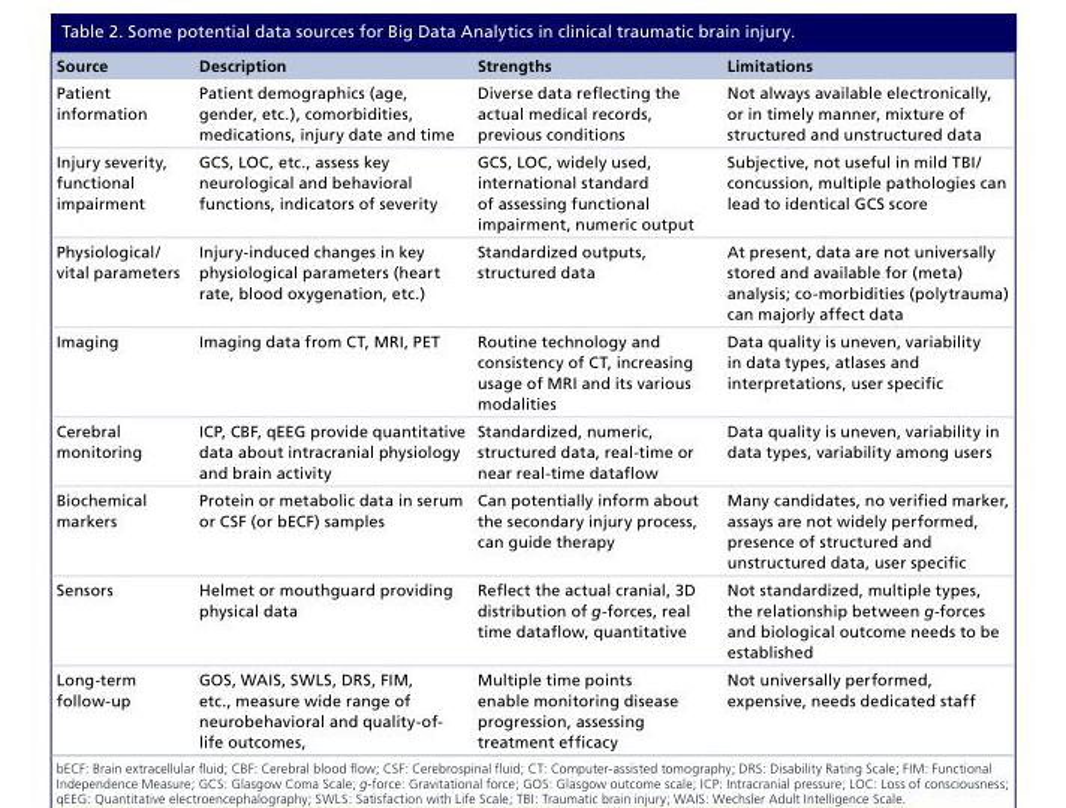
<table><thead><tr><td>Source</td><td>Description</td><td>Strengths</td><td>Limitations</td></tr></thead><tbody><tr><td>Patient information</td><td>Patient demographics (age, gender, etc.), comorbidities, medications, injury date and time</td><td>Diverse data reflecting the actual medical records, previous conditions</td><td>Not always available electronically, or in timely manner, mixture of structured and unstructured data</td></tr><tr><td>Injury severity, functional impairment</td><td>GCS, LOC, etc., assess key neurological and behavioral functions, indicators of severity</td><td>GCS, LOC, widely used, international standard of assessing functional impairment, numeric output</td><td>Subjective, not useful in mild TBI/ concussion, multiple pathologies can lead to identical GCS score</td></tr><tr><td>Physiological/ vital parameters</td><td>Injury-induced changes in key physiological parameters (heart rate, blood oxygenation, etc.)</td><td>Standardized outputs, structured data</td><td>At present, data are not universally stored and available for (meta) analysis; co-morbidities (polytrauma) can majorly affect data</td></tr><tr><td>Imaging</td><td>Imaging data from CT, MRI, PET</td><td>Routine technology and consistency of CT, increasing usage of MRI and its various modalities</td><td>Data quality is uneven, variability in data types, atlases and interpretations, user specific</td></tr><tr><td>Cerebral monitoring</td><td>ICP, CBF, qEEG provide quantitative data about intracranial physiology and brain activity</td><td>Standardized, numeric, structured data, real-time or near real-time dataflow</td><td>Data quality is uneven, variability in data types, variability among users</td></tr><tr><td>Biochemical markers</td><td>Protein or metabolic data in serum or CSF (or bECF) samples</td><td>Can potentially inform about the secondary injury process, can guide therapy</td><td>Many candidates, no verified marker, assays are not widely performed, presence of structured and unstructured data, user specific</td></tr><tr><td>Sensors</td><td>Helmet or mouthguard providing physical data</td><td>Reflect the actual cranial, 3D distribution of g-forces, real time dataflow, quantitative</td><td>Not standardized, multiple types, the relationship between g-forces and biological outcome needs to be established</td></tr><tr><td>Long-term follow-up</td><td>GOS, WAIS, SWLS, DRS, FIM, etc., measure wide range of neurobehavioral and quality-of- life outcomes,</td><td>Multiple time points enable monitoring disease progression, assessing treatment efficacy</td><td>Not universally performed, expensive, needs dedicated staff</td></tr></tbody></table>